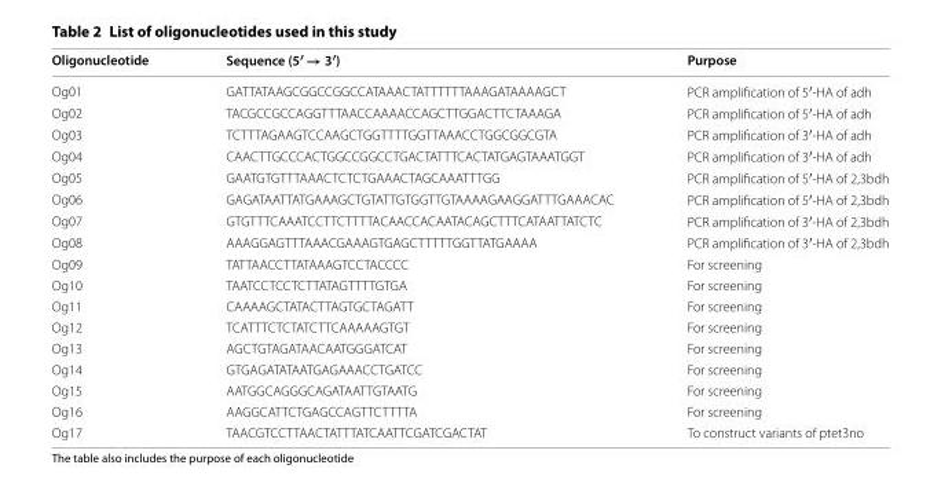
<table><thead><tr><td>Oligonucleotide</td><td>Sequence (5′ → 3′)</td><td>Purpose</td></tr></thead><tbody><tr><td>Og01</td><td>GATTATAAGCGGCCGGCCATAAACTATTTTTTAAAGATAAAAGCT</td><td>PCR amplification of 5′-HA of adh</td></tr><tr><td>Og02</td><td>TACGCCGCCAGGTTTAACCAAAACCAGCTTGGACTTCTAAAGA</td><td>PCR amplification of 5′-HA of adh</td></tr><tr><td>Og03</td><td>TCTTTAGAAGTCCAAGCTGGTTTTGGTTAAACCTGGCGGCGTA</td><td>PCR amplification of 3′-HA of adh</td></tr><tr><td>Og04</td><td>CAACTTGCCCACTGGCCGGCCTGACTATTTCACTATGAGTAAATGGT</td><td>PCR amplification of 3′-HA of adh</td></tr><tr><td>Og05</td><td>GAATGTGTTTAAACTCTCTGAAACTAGCAAATTTGG</td><td>PCR amplification of 5′-HA of 2,3bdh</td></tr><tr><td>Og06</td><td>GAGATAATTATGAAAGCTGTATTGTGGTTGTAAAAGAAGGATTTGAAACAC</td><td>PCR amplification of 5′-HA of 2,3bdh</td></tr><tr><td>Og07</td><td>GTGTTTCAAATCCTTCTTTTACAACCACAATACAGCTTTCATAATTATCTC</td><td>PCR amplification of 3′-HA of 2,3bdh</td></tr><tr><td>Og08</td><td>AAAGGAGTTTAAACGAAAGTGAGCTTTTTGGTTATGAAAA</td><td>PCR amplification of 3′-HA of 2,3bdh</td></tr><tr><td>Og09</td><td>TATTAACCTTATAAAGTCCTACCCC</td><td>For screening</td></tr><tr><td>Og10</td><td>TAATCCTCCTCTTATAGTTTTGTGA</td><td>For screening</td></tr><tr><td>Og11</td><td>CAAAAGCTATACTTAGTGCTAGATT</td><td>For screening</td></tr><tr><td>Og12</td><td>TCATTTCTCTATCTTCAAAAAGTGT</td><td>For screening</td></tr><tr><td>Og13</td><td>AGCTGTAGATAACAATGGGATCAT</td><td>For screening</td></tr><tr><td>Og14</td><td>GTGAGATATAATGAGAAACCTGATCC</td><td>For screening</td></tr><tr><td>Og15</td><td>AATGGCAGGGCAGATAATTGTAATG</td><td>For screening</td></tr><tr><td>Og16</td><td>AAGGCATTCTGAGCCAGTTCTTTTA</td><td>For screening</td></tr><tr><td>Og17</td><td>TAACGTCCTTAACTATTTATCAATTCGATCGACTAT</td><td>To construct variants of ptet3no</td></tr></tbody></table>